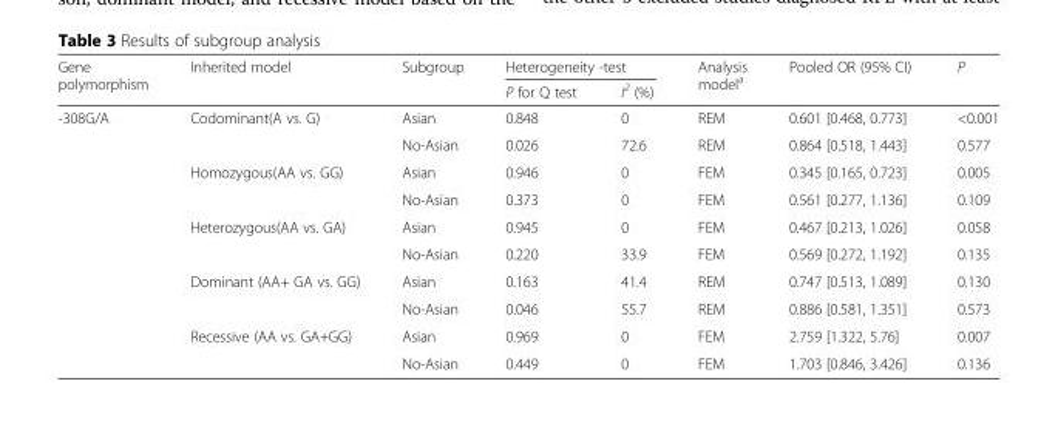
<table><thead><tr><td rowspan="2">Gene polymorphism</td><td rowspan="2">Inherited model</td><td rowspan="2">Subgroup</td><td colspan="2">Heterogeneity -test</td><td rowspan="2">Analysis model<sup>a</sup></td><td rowspan="2">Pooled OR (95% CI)</td><td rowspan="2">P</td></tr><tr><td>P for Q test</td><td>I<sup>2</sup> (%)</td></tr></thead><tbody><tr><td rowspan="10">-308G/A</td><td rowspan="2">Codominant(A vs. G)</td><td>Asian</td><td>0.848</td><td>0</td><td>REM</td><td>0.601 [0.468, 0.773]</td><td>&lt;0.001</td></tr><tr><td>No-Asian</td><td>0.026</td><td>72.6</td><td>REM</td><td>0.864 [0.518, 1.443]</td><td>0.577</td></tr><tr><td rowspan="2">Homozygous(AA vs. GG)</td><td>Asian</td><td>0.946</td><td>0</td><td>FEM</td><td>0.345 [0.165, 0.723]</td><td>0.005</td></tr><tr><td>No-Asian</td><td>0.373</td><td>0</td><td>FEM</td><td>0.561 [0.277, 1.136]</td><td>0.109</td></tr><tr><td rowspan="2">Heterozygous(AA vs. GA)</td><td>Asian</td><td>0.945</td><td>0</td><td>FEM</td><td>0.467 [0.213, 1.026]</td><td>0.058</td></tr><tr><td>No-Asian</td><td>0.220</td><td>33.9</td><td>FEM</td><td>0.569 [0.272, 1.192]</td><td>0.135</td></tr><tr><td rowspan="2">Dominant (AA+ GA vs. GG)</td><td>Asian</td><td>0.163</td><td>41.4</td><td>REM</td><td>0.747 [0.513, 1.089]</td><td>0.130</td></tr><tr><td>No-Asian</td><td>0.046</td><td>55.7</td><td>REM</td><td>0.886 [0.581, 1.351]</td><td>0.573</td></tr><tr><td rowspan="2">Recessive (AA vs. GA+GG)</td><td>Asian</td><td>0.969</td><td>0</td><td>FEM</td><td>2.759 [1.322, 5.76]</td><td>0.007</td></tr><tr><td>No-Asian</td><td>0.449</td><td>0</td><td>FEM</td><td>1.703 [0.846, 3.426]</td><td>0.136</td></tr></tbody></table>